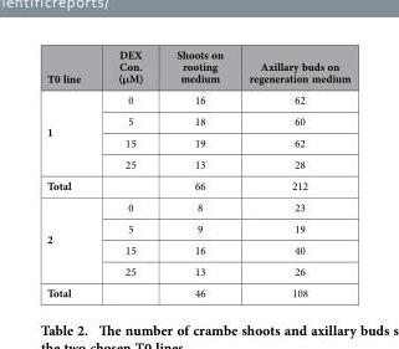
<table><thead><tr><td>T0 line</td><td>DEX Con. (μM)</td><td>Shoots on rooting medium</td><td>Axillary buds on regeneration medium</td></tr></thead><tbody><tr><td rowspan="4">1</td><td>0</td><td>16</td><td>62</td></tr><tr><td>5</td><td>18</td><td>60</td></tr><tr><td>15</td><td>19</td><td>62</td></tr><tr><td>25</td><td>13</td><td>28</td></tr><tr><td>Total</td><td></td><td>66</td><td>212</td></tr><tr><td rowspan="4">2</td><td>0</td><td>8</td><td>23</td></tr><tr><td>5</td><td>9</td><td>19</td></tr><tr><td>15</td><td>16</td><td>40</td></tr><tr><td>25</td><td>13</td><td>26</td></tr><tr><td>Total</td><td></td><td>46</td><td>108</td></tr></tbody></table>